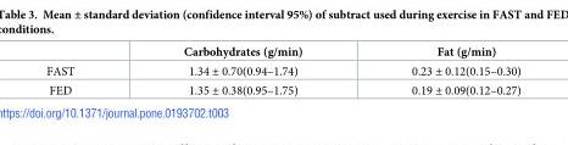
<table><thead><tr><td></td><td>Carbohydrates (g/min)</td><td>Fat (g/min)</td></tr></thead><tbody><tr><td>FAST</td><td>1.34 ± 0.70(0.94–1.74)</td><td>0.23 ± 0.12(0.15–0.30)</td></tr><tr><td>FED</td><td>1.35 ± 0.38(0.95–1.75)</td><td>0.19 ± 0.09(0.12–0.27)</td></tr></tbody></table>